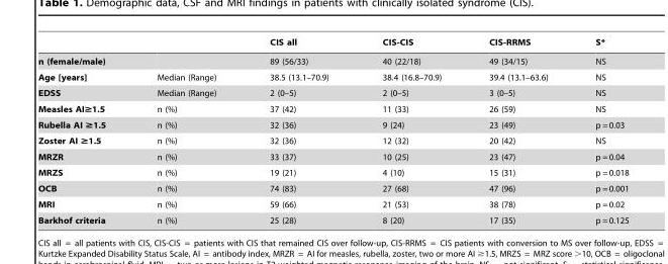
<table><thead><tr><td></td><td></td><td>CIS all</td><td>CIS-CIS</td><td>CIS-RRMS</td><td>S*</td></tr></thead><tbody><tr><td>n (female/male)</td><td></td><td>89 (56/33)</td><td>40 (22/18)</td><td>49 (34/15)</td><td>NS</td></tr><tr><td>Age [years]</td><td>Median (Range)</td><td>38.5 (13.1–70.9)</td><td>38.4 (16.8–70.9)</td><td>39.4 (13.1–63.6)</td><td>NS</td></tr><tr><td>EDSS</td><td>Median (Range)</td><td>2 (0–5)</td><td>2 (0–5)</td><td>3 (0–5)</td><td>NS</td></tr><tr><td>Measles AI≥1.5</td><td>n (%)</td><td>37 (42)</td><td>11 (33)</td><td>26 (59)</td><td>NS</td></tr><tr><td>Rubella AI ≥1.5</td><td>n (%)</td><td>32 (36)</td><td>9 (24)</td><td>23 (49)</td><td>p = 0.03</td></tr><tr><td>Zoster AI ≥1.5</td><td>n (%)</td><td>32 (36)</td><td>12 (32)</td><td>20 (42)</td><td>NS</td></tr><tr><td>MRZR</td><td>n (%)</td><td>33 (37)</td><td>10 (25)</td><td>23 (47)</td><td>p = 0.04</td></tr><tr><td>MRZS</td><td>n (%)</td><td>19 (21)</td><td>4 (10)</td><td>15 (31)</td><td>p = 0.018</td></tr><tr><td>OCB</td><td>n (%)</td><td>74 (83)</td><td>27 (68)</td><td>47 (96)</td><td>p = 0.001</td></tr><tr><td>MRI</td><td>n (%)</td><td>59 (66)</td><td>21 (53)</td><td>38 (78)</td><td>p = 0.02</td></tr><tr><td>Barkhof criteria</td><td>n (%)</td><td>25 (28)</td><td>8 (20)</td><td>17 (35)</td><td>p = 0.125</td></tr></tbody></table>